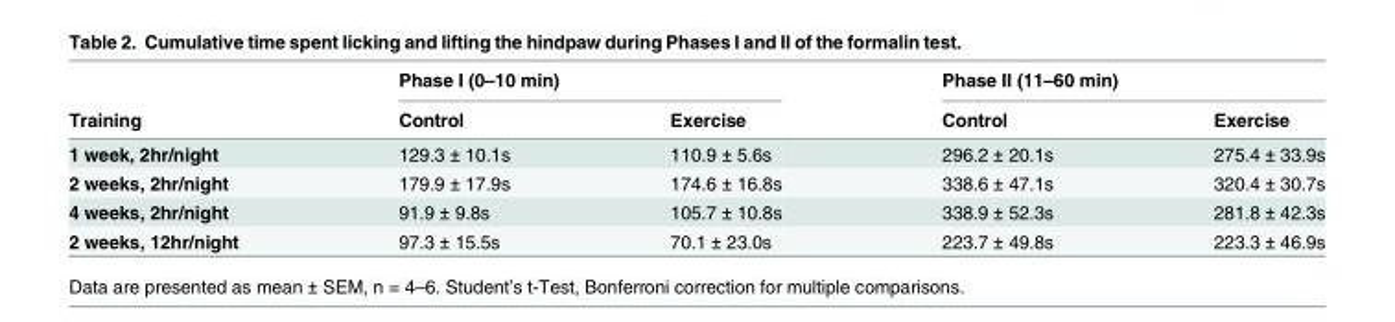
<table><thead><tr><td rowspan="2">Training</td><td colspan="2">Phase I (0–10 min)</td><td colspan="2">Phase II (11–60 min)</td></tr><tr><td>Control</td><td>Exercise</td><td>Control</td><td>Exercise</td></tr></thead><tbody><tr><td>1 week, 2hr/night</td><td>129.3 ± 10.1s</td><td>110.9 ± 5.6s</td><td>296.2 ± 20.1s</td><td>275.4 ± 33.9s</td></tr><tr><td>2 weeks, 2hr/night</td><td>179.9 ± 17.9s</td><td>174.6 ± 16.8s</td><td>338.6 ± 47.1s</td><td>320.4 ± 30.7s</td></tr><tr><td>4 weeks, 2hr/night</td><td>91.9 ± 9.8s</td><td>105.7 ± 10.8s</td><td>338.9 ± 52.3s</td><td>281.8 ± 42.3s</td></tr><tr><td>2 weeks, 12hr/night</td><td>97.3 ± 15.5s</td><td>70.1 ± 23.0s</td><td>223.7 ± 49.8s</td><td>223.3 ± 46.9s</td></tr></tbody></table>